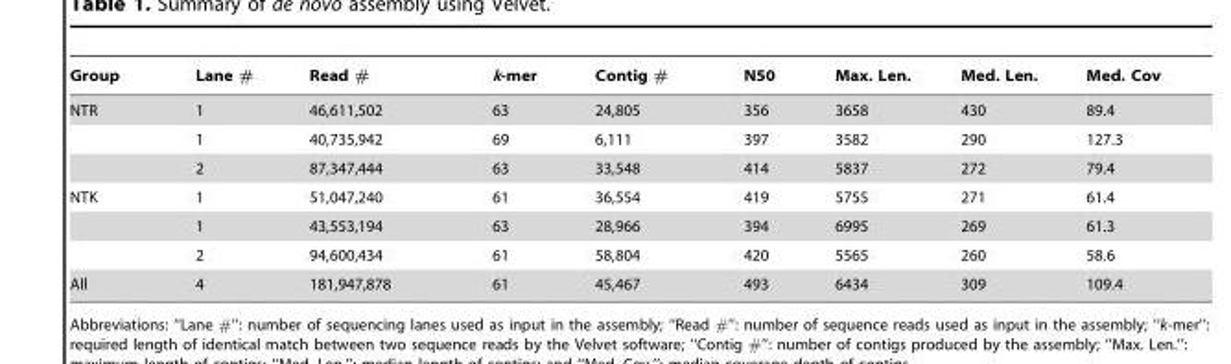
<table><thead><tr><td>Group</td><td>Lane #</td><td>Read #</td><td>k-mer</td><td>Contig #</td><td>N50</td><td>Max. Len.</td><td>Med. Len.</td><td>Med. Cov</td></tr></thead><tbody><tr><td rowspan="3">NTR</td><td>1</td><td>46,611,502</td><td>63</td><td>24,805</td><td>356</td><td>3658</td><td>430</td><td>89.4</td></tr><tr><td>1</td><td>40,735,942</td><td>69</td><td>6,111</td><td>397</td><td>3582</td><td>290</td><td>127.3</td></tr><tr><td>2</td><td>87,347,444</td><td>63</td><td>33,548</td><td>414</td><td>5837</td><td>272</td><td>79.4</td></tr><tr><td rowspan="3">NTK</td><td>1</td><td>51,047,240</td><td>61</td><td>36,554</td><td>419</td><td>5755</td><td>271</td><td>61.4</td></tr><tr><td>1</td><td>43,553,194</td><td>63</td><td>28,966</td><td>394</td><td>6995</td><td>269</td><td>61.3</td></tr><tr><td>2</td><td>94,600,434</td><td>61</td><td>58,804</td><td>420</td><td>5565</td><td>260</td><td>58.6</td></tr><tr><td>All</td><td>4</td><td>181,947,878</td><td>61</td><td>45,467</td><td>493</td><td>6434</td><td>309</td><td>109.4</td></tr></tbody></table>